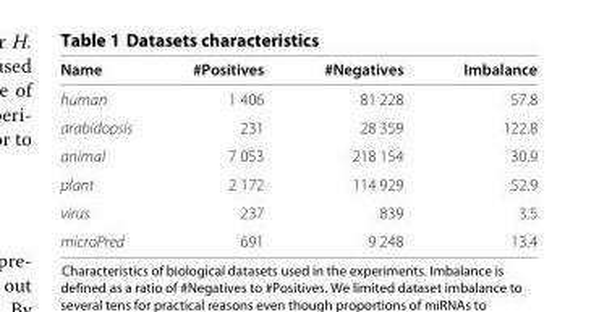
<table><thead><tr><td>Name</td><td>#Positives</td><td>#Negatives</td><td>Imbalance</td></tr></thead><tbody><tr><td>human</td><td>1 406</td><td>81 228</td><td>57.8</td></tr><tr><td>arabidopsis</td><td>231</td><td>28 359</td><td>122.8</td></tr><tr><td>animal</td><td>7 053</td><td>218 154</td><td>30.9</td></tr><tr><td>plant</td><td>2 172</td><td>114 929</td><td>52.9</td></tr><tr><td>virus</td><td>237</td><td>839</td><td>3.5</td></tr><tr><td>microPred</td><td>691</td><td>9 248</td><td>13.4</td></tr></tbody></table>